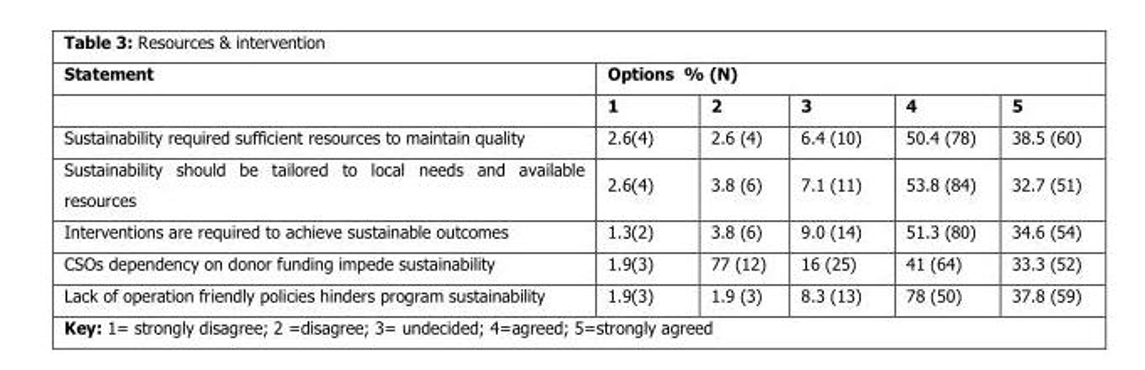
<table><thead><tr><td rowspan="2">Statement</td><td colspan="5">Options % (N)</td></tr><tr><td>1</td><td>2</td><td>3</td><td>4</td><td>5</td></tr></thead><tbody><tr><td>Sustainability required sufficient resources to maintain quality</td><td>2.6(4)</td><td>2.6 (4)</td><td>6.4 (10)</td><td>50.4 (78)</td><td>38.5 (60)</td></tr><tr><td>Sustainability should be tailored to local needs and available resources</td><td>2.6(4)</td><td>3.8 (6)</td><td>7.1 (11)</td><td>53.8 (84)</td><td>32.7 (51)</td></tr><tr><td>Interventions are required to achieve sustainable outcomes</td><td>1.3(2)</td><td>3.8 (6)</td><td>9.0 (14)</td><td>51.3 (80)</td><td>34.6 (54)</td></tr><tr><td>CSOs dependency on donor funding impede sustainability</td><td>1.9(3)</td><td>77 (12)</td><td>16 (25)</td><td>41 (64)</td><td>33.3 (52)</td></tr><tr><td>Lack of operation friendly policies hinders program sustainability</td><td>1.9(3)</td><td>1.9 (3)</td><td>8.3 (13)</td><td>78 (50)</td><td>37.8 (59)</td></tr></tbody></table>